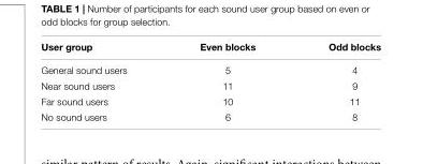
<table><thead><tr><td>User group</td><td>Even blocks</td><td>Odd blocks</td></tr></thead><tbody><tr><td>General sound users</td><td>5</td><td>4</td></tr><tr><td>Near sound users</td><td>11</td><td>9</td></tr><tr><td>Far sound users</td><td>10</td><td>11</td></tr><tr><td>No sound users</td><td>6</td><td>8</td></tr></tbody></table>